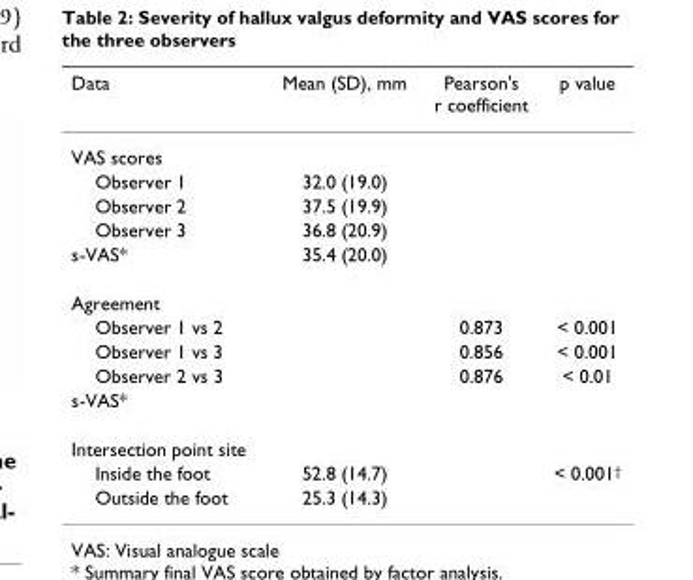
<table><thead><tr><td>Data</td><td>Mean (SD), mm</td><td>Pearson&#x27;s r coefficient</td><td>p value</td></tr></thead><tbody><tr><td colspan="4">VAS scores</td></tr><tr><td>Observer 1</td><td>32.0 (19.0)</td><td></td><td></td></tr><tr><td>Observer 2</td><td>37.5 (19.9)</td><td></td><td></td></tr><tr><td>Observer 3</td><td>36.8 (20.9)</td><td></td><td></td></tr><tr><td>s-VAS*</td><td>35.4 (20.0)</td><td></td><td></td></tr><tr><td colspan="4">Agreement</td></tr><tr><td>Observer 1 vs 2</td><td></td><td>0.873</td><td>&lt; 0.001</td></tr><tr><td>Observer 1 vs 3</td><td></td><td>0.856</td><td>&lt; 0.001</td></tr><tr><td>Observer 2 vs 3</td><td></td><td>0.876</td><td>&lt; 0.01</td></tr><tr><td colspan="4">s-VAS*</td></tr><tr><td colspan="4">Intersection point site</td></tr><tr><td>Inside the foot</td><td>52.8 (14.7)</td><td></td><td>&lt; 0.001<sup>†</sup></td></tr><tr><td>Outside the foot</td><td>25.3 (14.3)</td><td></td><td></td></tr></tbody></table>